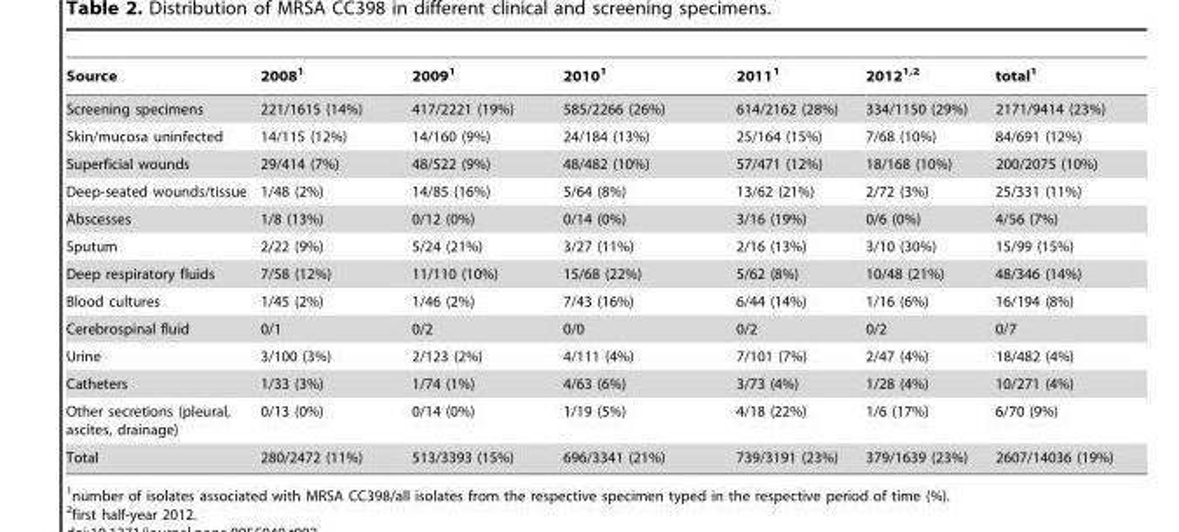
<table><thead><tr><td>Source</td><td>2008<sup>1</sup></td><td>2009<sup>1</sup></td><td>2010<sup>1</sup></td><td>2011<sup>1</sup></td><td>2012<sup>1,2</sup></td><td>total<sup>1</sup></td></tr></thead><tbody><tr><td>Screening specimens</td><td>221/1615 (14%)</td><td>417/2221 (19%)</td><td>585/2266 (26%)</td><td>614/2162 (28%)</td><td>334/1150 (29%)</td><td>2171/9414 (23%)</td></tr><tr><td>Skin/mucosa uninfected</td><td>14/115 (12%)</td><td>14/160 (9%)</td><td>24/184 (13%)</td><td>25/164 (15%)</td><td>7/68 (10%)</td><td>84/691 (12%)</td></tr><tr><td>Superficial wounds</td><td>29/414 (7%)</td><td>48/522 (9%)</td><td>48/482 (10%)</td><td>57/471 (12%)</td><td>18/168 (10%)</td><td>200/2075 (10%)</td></tr><tr><td>Deep-seated wounds/tissue</td><td>1/48 (2%)</td><td>14/85 (16%)</td><td>5/64 (8%)</td><td>13/62 (21%)</td><td>2/72 (3%)</td><td>25/331 (11%)</td></tr><tr><td>Abscesses</td><td>1/8 (13%)</td><td>0/12 (0%)</td><td>0/14 (0%)</td><td>3/16 (19%)</td><td>0/6 (0%)</td><td>4/56 (7%)</td></tr><tr><td>Sputum</td><td>2/22 (9%)</td><td>5/24 (21%)</td><td>3/27 (11%)</td><td>2/16 (13%)</td><td>3/10 (30%)</td><td>15/99 (15%)</td></tr><tr><td>Deep respiratory fluids</td><td>7/58 (12%)</td><td>11/110 (10%)</td><td>15/68 (22%)</td><td>5/62 (8%)</td><td>10/48 (21%)</td><td>48/346 (14%)</td></tr><tr><td>Blood cultures</td><td>1/45 (2%)</td><td>1/46 (2%)</td><td>7/43 (16%)</td><td>6/44 (14%)</td><td>1/16 (6%)</td><td>16/194 (8%)</td></tr><tr><td>Cerebrospinal fluid</td><td>0/1</td><td>0/2</td><td>0/0</td><td>0/2</td><td>0/2</td><td>0/7</td></tr><tr><td>Urine</td><td>3/100 (3%)</td><td>2/123 (2%)</td><td>4/111 (4%)</td><td>7/101 (7%)</td><td>2/47 (4%)</td><td>18/482 (4%)</td></tr><tr><td>Catheters</td><td>1/33 (3%)</td><td>1/74 (1%)</td><td>4/63 (6%)</td><td>3/73 (4%)</td><td>1/28 (4%)</td><td>10/271 (4%)</td></tr><tr><td>Other secretions (pleural, ascites, drainage)</td><td>0/13 (0%)</td><td>0/14 (0%)</td><td>1/19 (5%)</td><td>4/18 (22%)</td><td>1/6 (17%)</td><td>6/70 (9%)</td></tr><tr><td>Total</td><td>280/2472 (11%)</td><td>513/3393 (15%)</td><td>696/3341 (21%)</td><td>739/3191 (23%)</td><td>379/1639 (23%)</td><td>2607/14036 (19%)</td></tr></tbody></table>